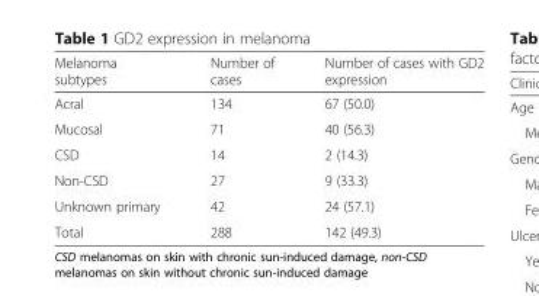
<table><thead><tr><td>Melanoma subtypes</td><td>Number of cases</td><td>Number of cases with GD2 expression</td></tr></thead><tbody><tr><td>Acral</td><td>134</td><td>67 (50.0)</td></tr><tr><td>Mucosal</td><td>71</td><td>40 (56.3)</td></tr><tr><td>CSD</td><td>14</td><td>2 (14.3)</td></tr><tr><td>Non-CSD</td><td>27</td><td>9 (33.3)</td></tr><tr><td>Unknown primary</td><td>42</td><td>24 (57.1)</td></tr><tr><td>Total</td><td>288</td><td>142 (49.3)</td></tr></tbody></table>